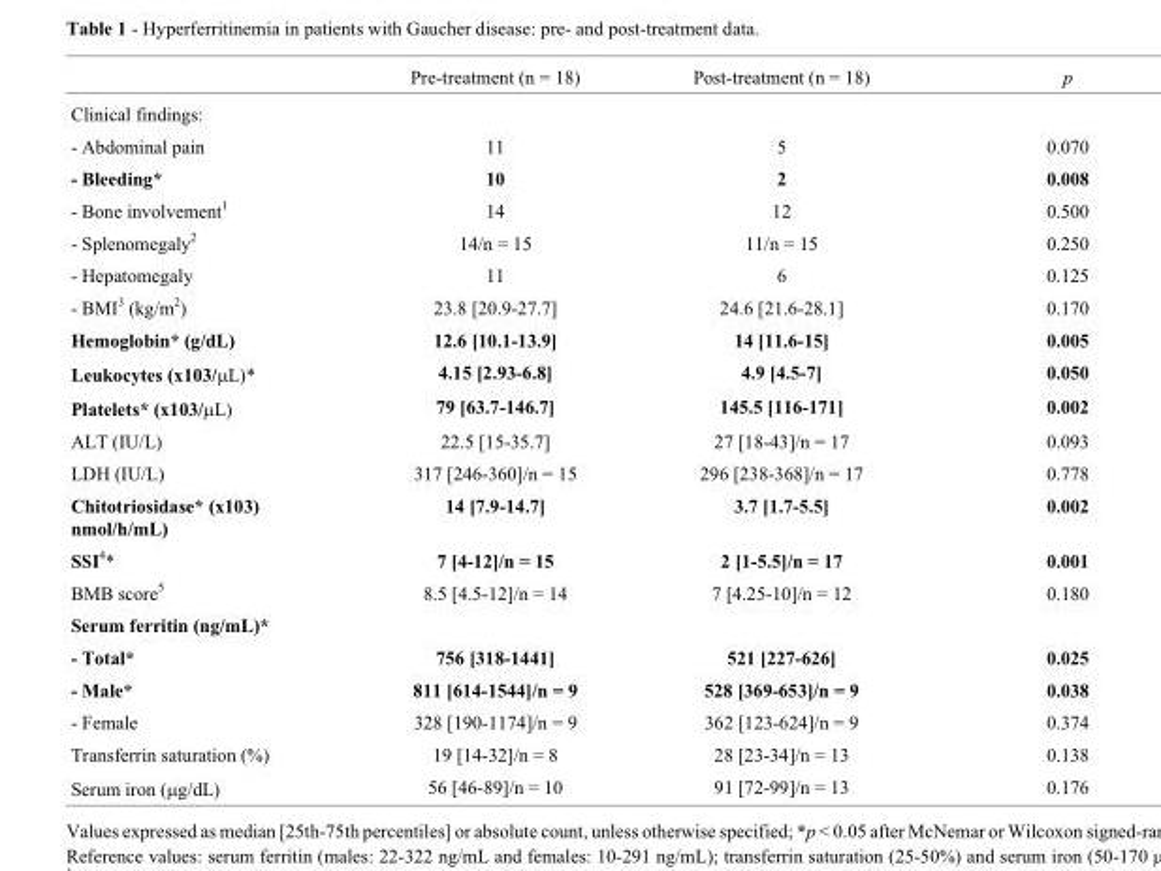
<table><thead><tr><td></td><td>Pre-treatment (n = 18)</td><td>Post-treatment (n = 18)</td><td>p</td></tr></thead><tbody><tr><td colspan="4">Clinical findings:</td></tr><tr><td>- Abdominal pain</td><td>11</td><td>5</td><td>0.070</td></tr><tr><td>- Bleeding*</td><td>10</td><td>2</td><td>0.008</td></tr><tr><td>- Bone involvement<sup>1</sup></td><td>14</td><td>12</td><td>0.500</td></tr><tr><td>- Splenomegaly<sup>2</sup></td><td>14/n = 15</td><td>11/n = 15</td><td>0.250</td></tr><tr><td>- Hepatomegaly</td><td>11</td><td>6</td><td>0.125</td></tr><tr><td>- BMI<sup>3</sup> (kg/m<sup>2</sup>)</td><td>23.8 [20.9-27.7]</td><td>24.6 [21.6-28.1]</td><td>0.170</td></tr><tr><td>Hemoglobin* (g/dL)</td><td>12.6 [10.1-13.9]</td><td>14 [11.6-15]</td><td>0.005</td></tr><tr><td>Leukocytes (x103/μL)*</td><td>4.15 [2.93-6.8]</td><td>4.9 [4.5-7]</td><td>0.050</td></tr><tr><td>Platelets* (x103/μL)</td><td>79 [63.7-146.7]</td><td>145.5 [116-171]</td><td>0.002</td></tr><tr><td>ALT (IU/L)</td><td>22.5 [15-35.7]</td><td>27 [18-43]/n = 17</td><td>0.093</td></tr><tr><td>LDH (IU/L)</td><td>317 [246-360]/n = 15</td><td>296 [238-368]/n = 17</td><td>0.778</td></tr><tr><td>Chitotriosidase* (x103) nmol/h/mL)</td><td>14 [7.9-14.7]</td><td>3.7 [1.7-5.5]</td><td>0.002</td></tr><tr><td>SSI4*</td><td>7 [4-12]/n = 15</td><td>2 [1-5.5]/n = 17</td><td>0.001</td></tr><tr><td>BMB score<sup>5</sup></td><td>8.5 [4.5-12]/n = 14</td><td>7 [4.25-10]/n = 12</td><td>0.180</td></tr><tr><td colspan="4">Serum ferritin (ng/mL)*</td></tr><tr><td>- Total*</td><td>756 [318-1441]</td><td>521 [227-626]</td><td>0.025</td></tr><tr><td>- Male*</td><td>811 [614-1544]/n = 9</td><td>528 [369-653]/n = 9</td><td>0.038</td></tr><tr><td>- Female</td><td>328 [190-1174]/n = 9</td><td>362 [123-624]/n = 9</td><td>0.374</td></tr><tr><td>Transferrin saturation (%)</td><td>19 [14-32]/n = 8</td><td>28 [23-34]/n = 13</td><td>0.138</td></tr><tr><td>Serum iron (μg/dL)</td><td>56 [46-89]/n = 10</td><td>91 [72-99]/n = 13</td><td>0.176</td></tr></tbody></table>